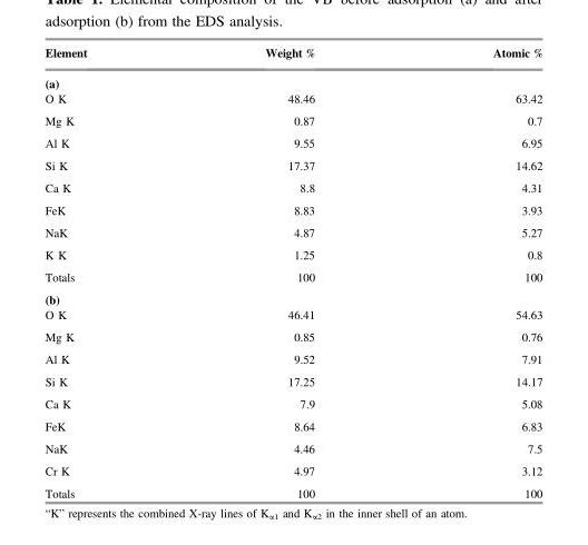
<table><thead><tr><td>Element</td><td>Weight %</td><td>Atomic %</td></tr></thead><tbody><tr><td colspan="3">(a)</td></tr><tr><td>O K</td><td>48.46</td><td>63.42</td></tr><tr><td>Mg K</td><td>0.87</td><td>0.7</td></tr><tr><td>Al K</td><td>9.55</td><td>6.95</td></tr><tr><td>Si K</td><td>17.37</td><td>14.62</td></tr><tr><td>Ca K</td><td>8.8</td><td>4.31</td></tr><tr><td>FeK</td><td>8.83</td><td>3.93</td></tr><tr><td>NaK</td><td>4.87</td><td>5.27</td></tr><tr><td>K K</td><td>1.25</td><td>0.8</td></tr><tr><td>Totals</td><td>100</td><td>100</td></tr><tr><td colspan="3">(b)</td></tr><tr><td>O K</td><td>46.41</td><td>54.63</td></tr><tr><td>Mg K</td><td>0.85</td><td>0.76</td></tr><tr><td>Al K</td><td>9.52</td><td>7.91</td></tr><tr><td>Si K</td><td>17.25</td><td>14.17</td></tr><tr><td>Ca K</td><td>7.9</td><td>5.08</td></tr><tr><td>FeK</td><td>8.64</td><td>6.83</td></tr><tr><td>NaK</td><td>4.46</td><td>7.5</td></tr><tr><td>Cr K</td><td>4.97</td><td>3.12</td></tr><tr><td>Totals</td><td>100</td><td>100</td></tr></tbody></table>